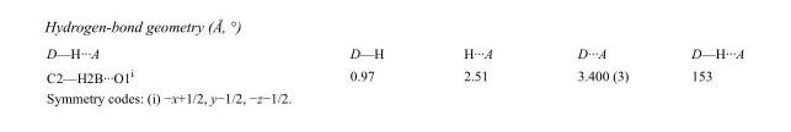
<table><tbody><tr><td>D—H···A</td><td>D—H</td><td>H···A</td><td>D···A</td><td>D—H···A</td></tr><tr><td>C2—H2B···O1<sup>i</sup></td><td>0.97</td><td>2.51</td><td>3.400 (3)</td><td>153</td></tr></tbody></table>